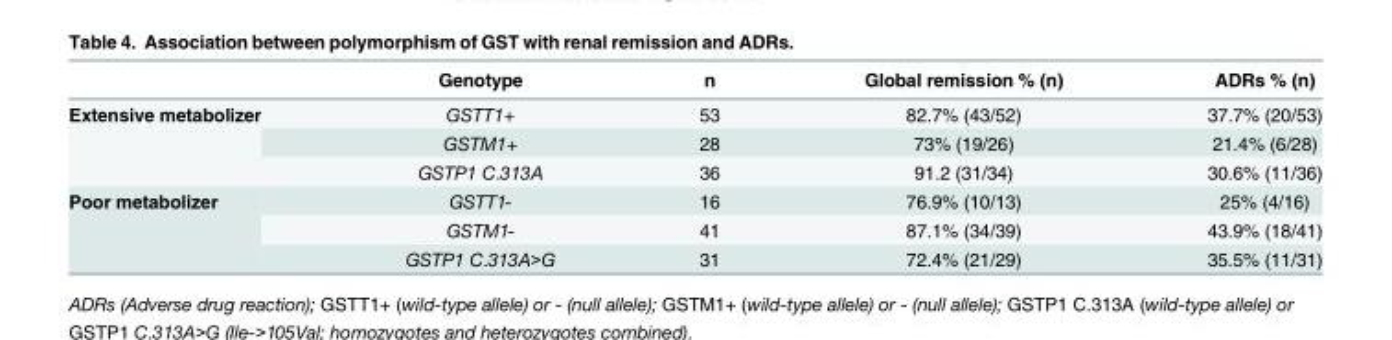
<table><thead><tr><td></td><td>Genotype</td><td>n</td><td>Global remission % (n)</td><td>ADRs % (n)</td></tr></thead><tbody><tr><td rowspan="3">Extensive metabolizer</td><td>GSTT1+</td><td>53</td><td>82.7% (43/52)</td><td>37.7% (20/53)</td></tr><tr><td>GSTM1+</td><td>28</td><td>73% (19/26)</td><td>21.4% (6/28)</td></tr><tr><td>GSTP1 C.313A</td><td>36</td><td>91.2 (31/34)</td><td>30.6% (11/36)</td></tr><tr><td rowspan="3">Poor metabolizer</td><td>GSTT1-</td><td>16</td><td>76.9% (10/13)</td><td>25% (4/16)</td></tr><tr><td>GSTM1-</td><td>41</td><td>87.1% (34/39)</td><td>43.9% (18/41)</td></tr><tr><td>GSTP1 C.313A&gt;G</td><td>31</td><td>72.4% (21/29)</td><td>35.5% (11/31)</td></tr></tbody></table>